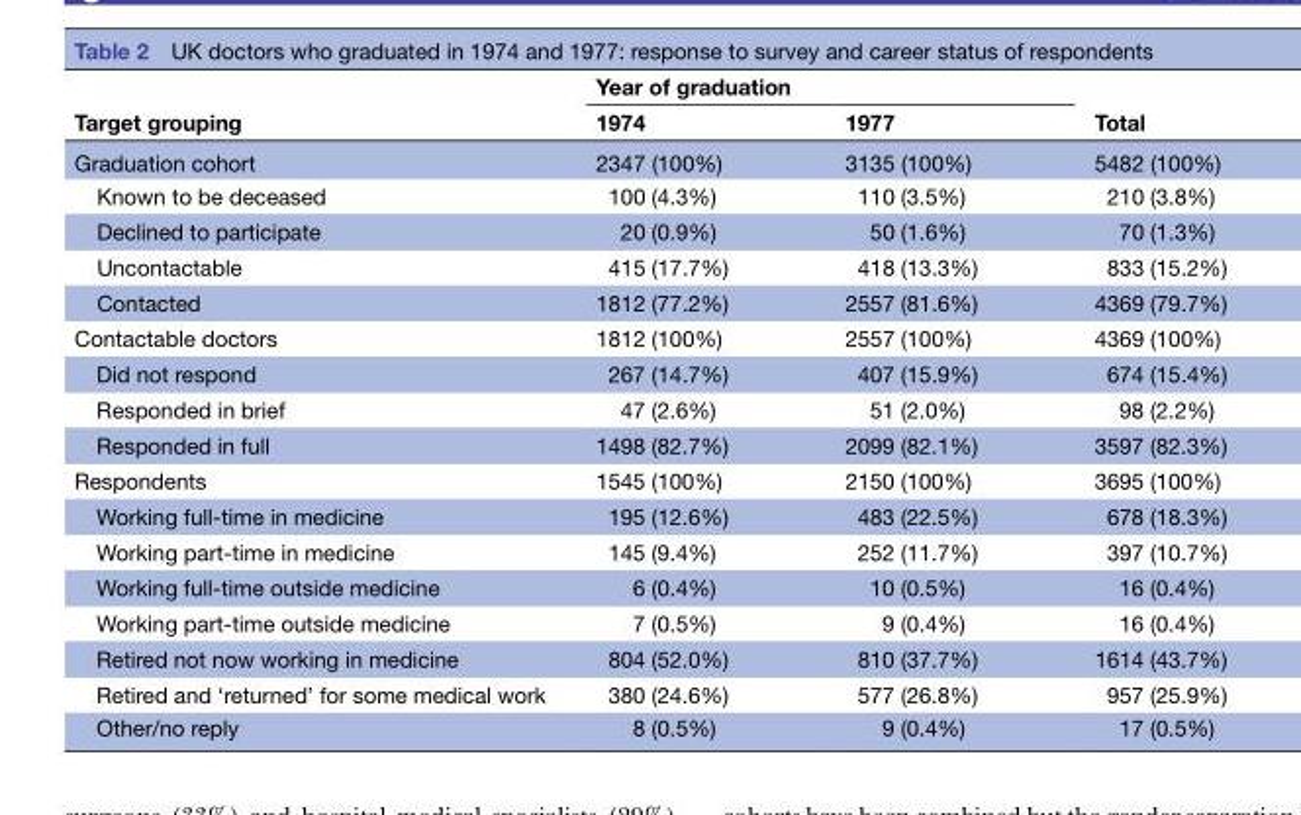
<table><thead><tr><td rowspan="2">Target grouping</td><td colspan="2">Year of graduation</td><td rowspan="2">Total</td></tr><tr><td>1974</td><td>1977</td></tr></thead><tbody><tr><td>Graduation cohort</td><td>2347 (100%)</td><td>3135 (100%)</td><td>5482 (100%)</td></tr><tr><td>Known to be deceased</td><td>100 (4.3%)</td><td>110 (3.5%)</td><td>210 (3.8%)</td></tr><tr><td>Declined to participate</td><td>20 (0.9%)</td><td>50 (1.6%)</td><td>70 (1.3%)</td></tr><tr><td>Uncontactable</td><td>415 (17.7%)</td><td>418 (13.3%)</td><td>833 (15.2%)</td></tr><tr><td>Contacted</td><td>1812 (77.2%)</td><td>2557 (81.6%)</td><td>4369 (79.7%)</td></tr><tr><td>Contactable doctors</td><td>1812 (100%)</td><td>2557 (100%)</td><td>4369 (100%)</td></tr><tr><td>Did not respond</td><td>267 (14.7%)</td><td>407 (15.9%)</td><td>674 (15.4%)</td></tr><tr><td>Responded in brief</td><td>47 (2.6%)</td><td>51 (2.0%)</td><td>98 (2.2%)</td></tr><tr><td>Responded in full</td><td>1498 (82.7%)</td><td>2099 (82.1%)</td><td>3597 (82.3%)</td></tr><tr><td>Respondents</td><td>1545 (100%)</td><td>2150 (100%)</td><td>3695 (100%)</td></tr><tr><td>Working full-time in medicine</td><td>195 (12.6%)</td><td>483 (22.5%)</td><td>678 (18.3%)</td></tr><tr><td>Working part-time in medicine</td><td>145 (9.4%)</td><td>252 (11.7%)</td><td>397 (10.7%)</td></tr><tr><td>Working full-time outside medicine</td><td>6 (0.4%)</td><td>10 (0.5%)</td><td>16 (0.4%)</td></tr><tr><td>Working part-time outside medicine</td><td>7 (0.5%)</td><td>9 (0.4%)</td><td>16 (0.4%)</td></tr><tr><td>Retired not now working in medicine</td><td>804 (52.0%)</td><td>810 (37.7%)</td><td>1614 (43.7%)</td></tr><tr><td>Retired and ‘returned’ for some medical work</td><td>380 (24.6%)</td><td>577 (26.8%)</td><td>957 (25.9%)</td></tr><tr><td>Other/no reply</td><td>8 (0.5%)</td><td>9 (0.4%)</td><td>17 (0.5%)</td></tr></tbody></table>